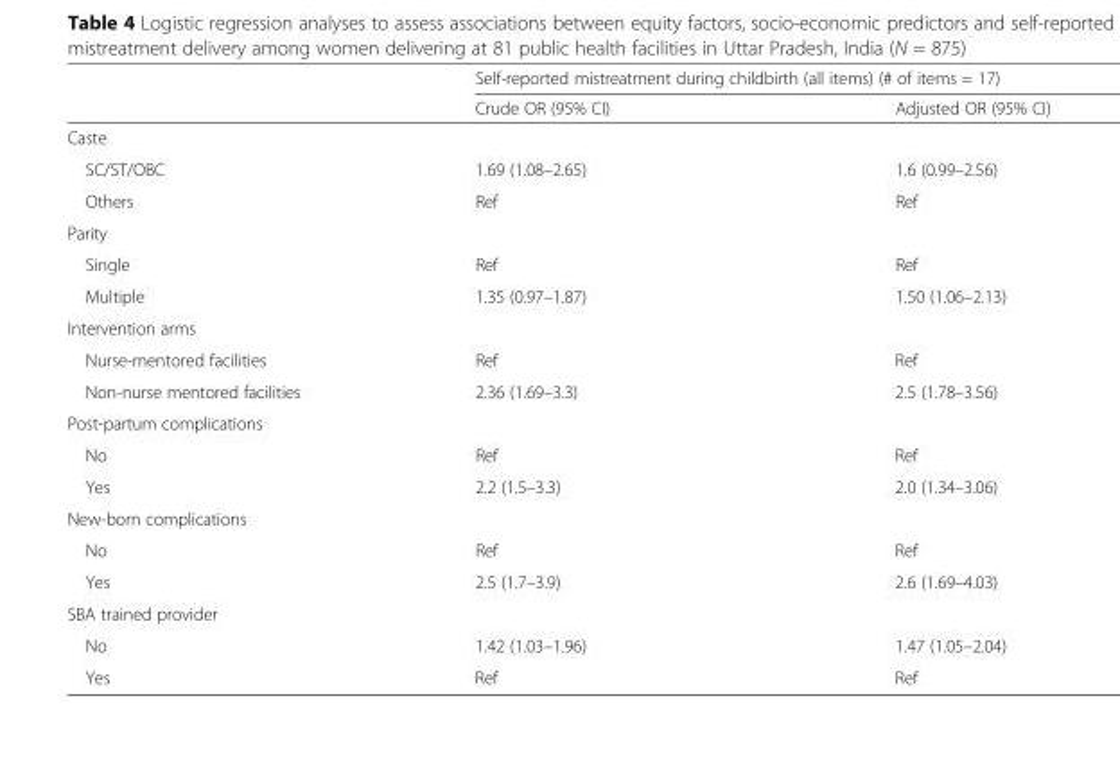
<table><thead><tr><td rowspan="2"></td><td colspan="2">Self-reported mistreatment during childbirth (all items) (# of items = 17)</td></tr><tr><td>Crude OR (95% CI)</td><td>Adjusted OR (95% CI)</td></tr></thead><tbody><tr><td colspan="3">Caste</td></tr><tr><td>SC/ST/OBC</td><td>1.69 (1.08–2.65)</td><td>1.6 (0.99–2.56)</td></tr><tr><td>Others</td><td>Ref</td><td>Ref</td></tr><tr><td colspan="3">Parity</td></tr><tr><td>Single</td><td>Ref</td><td>Ref</td></tr><tr><td>Multiple</td><td>1.35 (0.97–1.87)</td><td>1.50 (1.06–2.13)</td></tr><tr><td colspan="3">Intervention arms</td></tr><tr><td>Nurse-mentored facilities</td><td>Ref</td><td>Ref</td></tr><tr><td>Non-nurse mentored facilities</td><td>2.36 (1.69–3.3)</td><td>2.5 (1.78–3.56)</td></tr><tr><td colspan="3">Post-partum complications</td></tr><tr><td>No</td><td>Ref</td><td>Ref</td></tr><tr><td>Yes</td><td>2.2 (1.5–3.3)</td><td>2.0 (1.34–3.06)</td></tr><tr><td colspan="3">New-born complications</td></tr><tr><td>No</td><td>Ref</td><td>Ref</td></tr><tr><td>Yes</td><td>2.5 (1.7–3.9)</td><td>2.6 (1.69–4.03)</td></tr><tr><td colspan="3">SBA trained provider</td></tr><tr><td>No</td><td>1.42 (1.03–1.96)</td><td>1.47 (1.05–2.04)</td></tr><tr><td>Yes</td><td>Ref</td><td>Ref</td></tr></tbody></table>